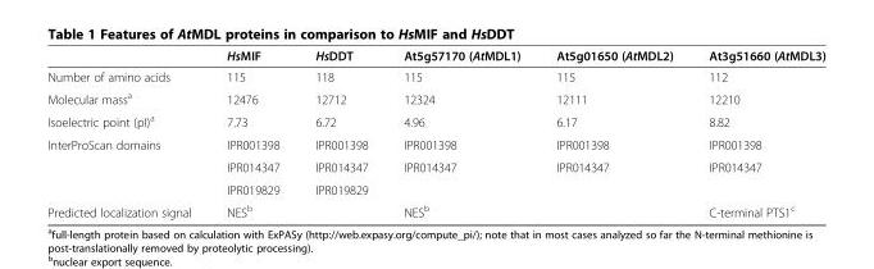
<table><thead><tr><td></td><td>HsMIF</td><td>HsDDT</td><td>At5g57170 (AtMDL1)</td><td>At5g01650 (AtMDL2)</td><td>At3g51660 (AtMDL3)</td></tr></thead><tbody><tr><td>Number of amino acids</td><td>115</td><td>118</td><td>115</td><td>115</td><td>112</td></tr><tr><td>Molecular mass<sup>a</sup></td><td>12476</td><td>12712</td><td>12324</td><td>12111</td><td>12210</td></tr><tr><td>Isoelectric point (pI)<sup>a</sup></td><td>7.73</td><td>6.72</td><td>4.96</td><td>6.17</td><td>8.82</td></tr><tr><td rowspan="3">InterProScan domains</td><td>IPR001398</td><td>IPR001398</td><td>IPR001398</td><td>IPR001398</td><td>IPR001398</td></tr><tr><td>IPR014347</td><td>IPR014347</td><td>IPR014347</td><td>IPR014347</td><td>IPR014347</td></tr><tr><td>IPR019829</td><td>IPR019829</td><td></td><td></td><td></td></tr><tr><td>Predicted localization signal</td><td>NES<sup>b</sup></td><td></td><td>NES<sup>b</sup></td><td></td><td>C-terminal PTS1<sup>c</sup></td></tr></tbody></table>